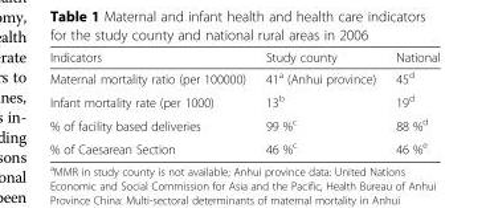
<table><thead><tr><td>Indicators</td><td>Study county</td><td>National</td></tr></thead><tbody><tr><td>Maternal mortality ratio (per 100000)</td><td>41<sup>a</sup> (Anhui province)</td><td>45<sup>d</sup></td></tr><tr><td>Infant mortality rate (per 1000)</td><td>13<sup>b</sup></td><td>19<sup>d</sup></td></tr><tr><td>% of facility based deliveries</td><td>99 %<sup>c</sup></td><td>88 %<sup>d</sup></td></tr><tr><td>% of Caesarean Section</td><td>46 %<sup>c</sup></td><td>46 %<sup>e</sup></td></tr></tbody></table>